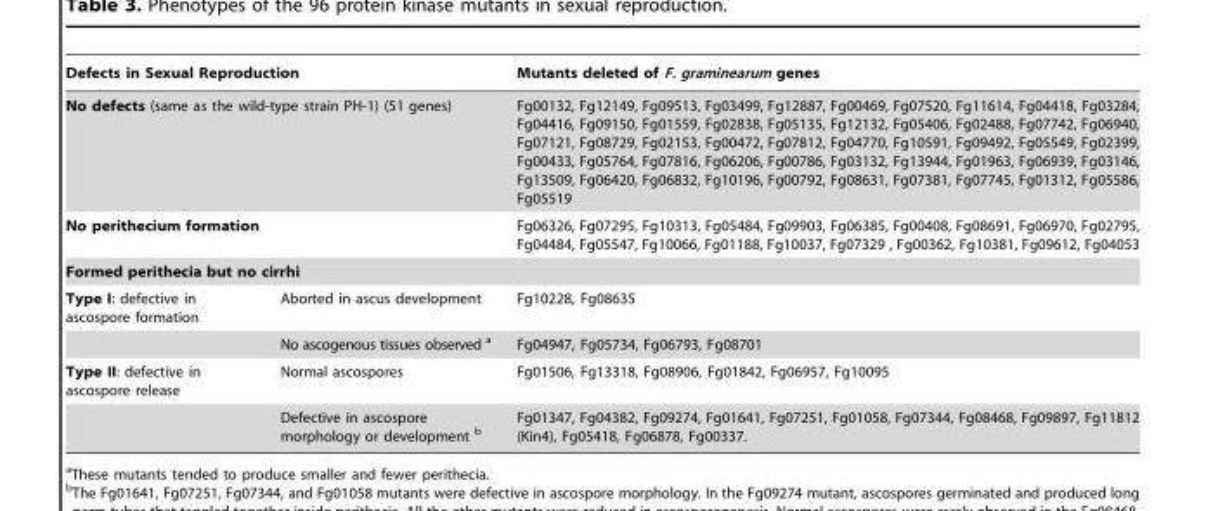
<table><thead><tr><td colspan="2">Defects in Sexual Reproduction</td><td>Mutants deleted of F. graminearum genes</td></tr></thead><tbody><tr><td colspan="2">No defects (same as the wild-type strain PH-1) (51 genes)</td><td>Fg00132, Fg12149, Fg09513, Fg03499, Fg12887, Fg00469, Fg07520, Fg11614, Fg04418, Fg03284, Fg04416, Fg09150, Fg01559, Fg02838, Fg05135, Fg12132, Fg05406, Fg02488, Fg07742, Fg06940, Fg07121, Fg08729, Fg02153, Fg00472, Fg07812, Fg04770, Fg10591, Fg09492, Fg05549, Fg02399, Fg00433, Fg05764, Fg07816, Fg06206, Fg00786, Fg03132, Fg13944, Fg01963, Fg06939, Fg03146, Fg13509, Fg06420, Fg06832, Fg10196, Fg00792, Fg08631, Fg07381, Fg07745, Fg01312, Fg05586, Fg05519</td></tr><tr><td colspan="2">No perithecium formation</td><td>Fg06326, Fg07295, Fg10313, Fg05484, Fg09903, Fg06385, Fg00408, Fg08691, Fg06970, Fg02795, Fg04484, Fg05547, Fg10066, Fg01188, Fg10037, Fg07329 , Fg00362, Fg10381, Fg09612, Fg04053</td></tr><tr><td colspan="3">Formed perithecia but no cirrhi</td></tr><tr><td rowspan="2">Type I: defective in ascospore formation</td><td>Aborted in ascus development</td><td>Fg10228, Fg08635</td></tr><tr><td>No ascogenous tissues observed a</td><td>Fg04947, Fg05734, Fg06793, Fg08701</td></tr><tr><td rowspan="2">Type II: defective in ascospore release</td><td>Normal ascospores</td><td>Fg01506, Fg13318, Fg08906, Fg01842, Fg06957, Fg10095</td></tr><tr><td>Defective in ascospore morphology or development b</td><td>Fg01347, Fg04382, Fg09274, Fg01641, Fg07251, Fg01058, Fg07344, Fg08468, Fg09897, Fg11812 (Kin4), Fg05418, Fg06878, Fg00337.</td></tr></tbody></table>